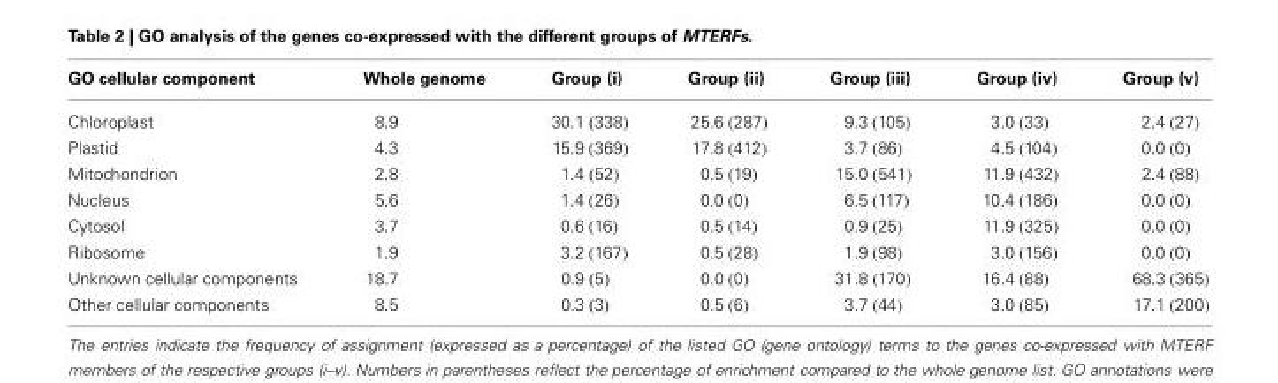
<table><thead><tr><td>GO cellular component</td><td>Whole genome</td><td>Group (i)</td><td>Group (ii)</td><td>Group (iii)</td><td>Group (iv)</td><td>Group (v)</td></tr></thead><tbody><tr><td>Chloroplast</td><td>8.9</td><td>30.1 (338)</td><td>25.6 (287)</td><td>9.3 (105)</td><td>3.0 (33)</td><td>2.4 (27)</td></tr><tr><td>Plastid</td><td>4.3</td><td>15.9 (369)</td><td>17.8 (412)</td><td>3.7 (86)</td><td>4.5 (104)</td><td>0.0 (0)</td></tr><tr><td>Mitochondrion</td><td>2.8</td><td>1.4 (52)</td><td>0.5 (19)</td><td>15.0 (541)</td><td>11.9 (432)</td><td>2.4 (88)</td></tr><tr><td>Nucleus</td><td>5.6</td><td>1.4 (26)</td><td>0.0 (0)</td><td>6.5 (117)</td><td>10.4 (186)</td><td>0.0 (0)</td></tr><tr><td>Cytosol</td><td>3.7</td><td>0.6 (16)</td><td>0.5 (14)</td><td>0.9 (25)</td><td>11.9 (325)</td><td>0.0 (0)</td></tr><tr><td>Ribosome</td><td>1.9</td><td>3.2 (167)</td><td>0.5 (28)</td><td>1.9 (98)</td><td>3.0 (156)</td><td>0.0 (0)</td></tr><tr><td>Unknown cellular components</td><td>18.7</td><td>0.9 (5)</td><td>0.0 (0)</td><td>31.8 (170)</td><td>16.4 (88)</td><td>68.3 (365)</td></tr><tr><td>Other cellular components</td><td>8.5</td><td>0.3 (3)</td><td>0.5 (6)</td><td>3.7 (44)</td><td>3.0 (85)</td><td>17.1 (200)</td></tr></tbody></table>